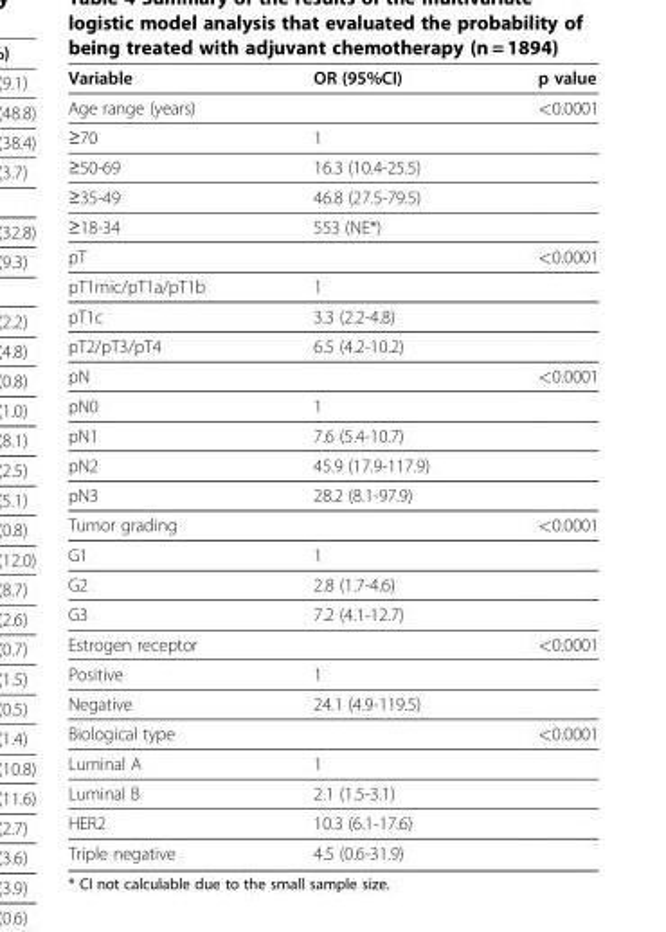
<table><thead><tr><td>Variable</td><td>OR (95%CI)</td><td>p value</td></tr></thead><tbody><tr><td>Age range (years)</td><td></td><td>&lt;0.0001</td></tr><tr><td>≥70</td><td>1</td><td></td></tr><tr><td>≥50-69</td><td>16.3 (10.4-25.5)</td><td></td></tr><tr><td>≥35-49</td><td>46.8 (27.5-79.5)</td><td></td></tr><tr><td>≥18-34</td><td>553 (NE*)</td><td></td></tr><tr><td>pT</td><td></td><td>&lt;0.0001</td></tr><tr><td>pT1mic/pT1a/pT1b</td><td>1</td><td></td></tr><tr><td>pT1c</td><td>3.3 (2.2-4.8)</td><td></td></tr><tr><td>pT2/pT3/pT4</td><td>6.5 (4.2-10.2)</td><td></td></tr><tr><td>pN</td><td></td><td>&lt;0.0001</td></tr><tr><td>pN0</td><td>1</td><td></td></tr><tr><td>pN1</td><td>7.6 (5.4-10.7)</td><td></td></tr><tr><td>pN2</td><td>45.9 (17.9-117.9)</td><td></td></tr><tr><td>pN3</td><td>28.2 (8.1-97.9)</td><td></td></tr><tr><td>Tumor grading</td><td></td><td>&lt;0.0001</td></tr><tr><td>G1</td><td>1</td><td></td></tr><tr><td>G2</td><td>2.8 (1.7-4.6)</td><td></td></tr><tr><td>G3</td><td>7.2 (4.1-12.7)</td><td></td></tr><tr><td>Estrogen receptor</td><td></td><td>&lt;0.0001</td></tr><tr><td>Positive</td><td>1</td><td></td></tr><tr><td>Negative</td><td>24.1 (4.9-119.5)</td><td></td></tr><tr><td>Biological type</td><td></td><td>&lt;0.0001</td></tr><tr><td>Luminal A</td><td>1</td><td></td></tr><tr><td>Luminal B</td><td>2.1 (1.5-3.1)</td><td></td></tr><tr><td>HER2</td><td>10.3 (6.1-17.6)</td><td></td></tr><tr><td>Triple negative</td><td>4.5 (0.6-31.9)</td><td></td></tr></tbody></table>